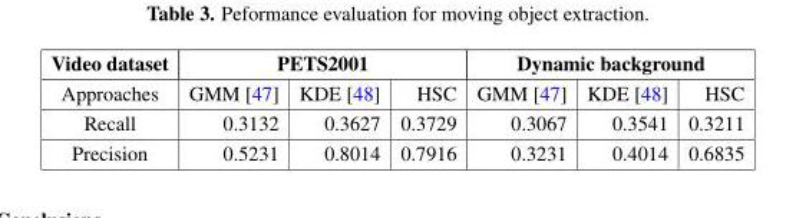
<table><thead><tr><td rowspan="2">Video dataset Approaches</td><td colspan="3">PETS2001</td><td colspan="3">Dynamic background</td></tr><tr><td>GMM [47]</td><td>KDE [48]</td><td>HSC</td><td>GMM [47]</td><td>KDE [48]</td><td>HSC</td></tr></thead><tbody><tr><td>Recall</td><td>0.3132</td><td>0.3627</td><td>0.3729</td><td>0.3067</td><td>0.3541</td><td>0.3211</td></tr><tr><td>Precision</td><td>0.5231</td><td>0.8014</td><td>0.7916</td><td>0.3231</td><td>0.4014</td><td>0.6835</td></tr></tbody></table>